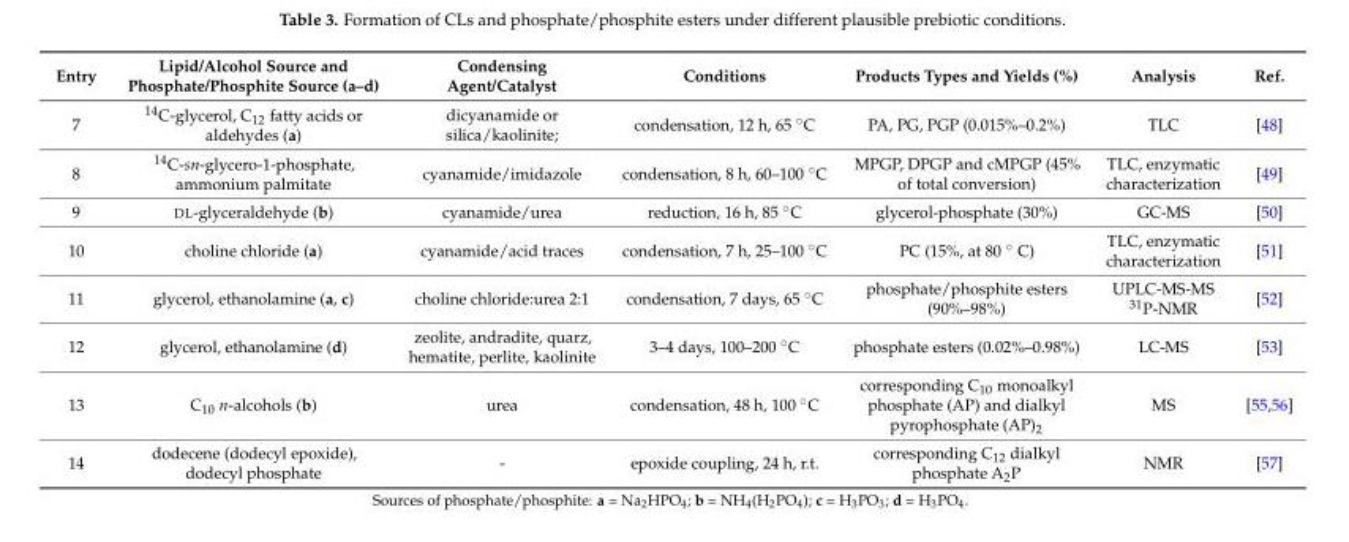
<table><thead><tr><td>Entry</td><td>Lipid/Alcohol Source and Phosphate/Phosphite Source (a–d)</td><td>Condensing Agent/Catalyst</td><td>Conditions</td><td>Products Types and Yields (%)</td><td>Analysis</td><td>Ref.</td></tr></thead><tbody><tr><td>7</td><td><sup>14</sup>C-glycerol, C<sub>12</sub> fatty acids or aldehydes (a)</td><td>dicyanamide or silica/kaolinite;</td><td>condensation, 12 h, 65 ˝C</td><td>PA, PG, PGP (0.015%–0.2%)</td><td>TLC</td><td>[48]</td></tr><tr><td>8</td><td><sup>14</sup>C-sn-glycero-1-phosphate, ammonium palmitate</td><td>cyanamide/imidazole</td><td>condensation, 8 h, 60–100 ˝C</td><td>MPGP, DPGP and cMPGP (45% of total conversion)</td><td>TLC, enzymatic characterization</td><td>[49]</td></tr><tr><td>9</td><td>DL-glyceraldehyde (b)</td><td>cyanamide/urea</td><td>reduction, 16 h, 85 ˝C</td><td>glycerol-phosphate (30%)</td><td>GC-MS</td><td>[50]</td></tr><tr><td>10</td><td>choline chloride (a)</td><td>cyanamide/acid traces</td><td>condensation, 7 h, 25–100 ˝C</td><td>PC (15%, at 80 ˝ C)</td><td>TLC, enzymatic characterization</td><td>[51]</td></tr><tr><td>11</td><td>glycerol, ethanolamine (a, c)</td><td>choline chloride:urea 2:1</td><td>condensation, 7 days, 65 ˝C</td><td>phosphate/phosphite esters (90%–98%)</td><td>UPLC-MS-MS <sup>31</sup>P-NMR</td><td>[52]</td></tr><tr><td>12</td><td>glycerol, ethanolamine (d)</td><td>zeolite, andradite, quarz, hematite, perlite, kaolinite</td><td>3–4 days, 100–200 ˝C</td><td>phosphate esters (0.02%–0.98%)</td><td>LC-MS</td><td>[53]</td></tr><tr><td>13</td><td>C<sub>10</sub> n-alcohols (b)</td><td>urea</td><td>condensation, 48 h, 100 ˝C</td><td>corresponding C<sub>10</sub> monoalkyl phosphate (AP) and dialkyl pyrophosphate (AP)<sub>2</sub></td><td>MS</td><td>[55,56]</td></tr><tr><td>14</td><td>dodecene (dodecyl epoxide), dodecyl phosphate</td><td>-</td><td>epoxide coupling, 24 h, r.t.</td><td>corresponding C<sub>12</sub> dialkyl phosphate A<sub>2</sub>P</td><td>NMR</td><td>[57]</td></tr></tbody></table>